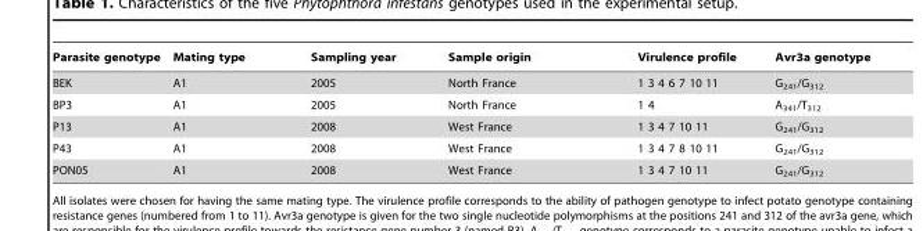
<table><thead><tr><td>Parasite genotype</td><td>Mating type</td><td>Sampling year</td><td>Sample origin</td><td>Virulence profile</td><td>Avr3a genotype</td></tr></thead><tbody><tr><td>BEK</td><td>A1</td><td>2005</td><td>North France</td><td>1 3 4 6 7 10 11</td><td>G<sub>241</sub>/G<sub>312</sub></td></tr><tr><td>BP3</td><td>A1</td><td>2005</td><td>North France</td><td>1 4</td><td>A<sub>341</sub>/T<sub>312</sub></td></tr><tr><td>P13</td><td>A1</td><td>2008</td><td>West France</td><td>1 3 4 7 10 11</td><td>G<sub>241</sub>/G<sub>312</sub></td></tr><tr><td>P43</td><td>A1</td><td>2008</td><td>West France</td><td>1 3 4 7 8 10 11</td><td>G<sub>241</sub>/G<sub>312</sub></td></tr><tr><td>PON05</td><td>A1</td><td>2008</td><td>West France</td><td>1 3 4 7 10 11</td><td>G<sub>241</sub>/G<sub>312</sub></td></tr></tbody></table>